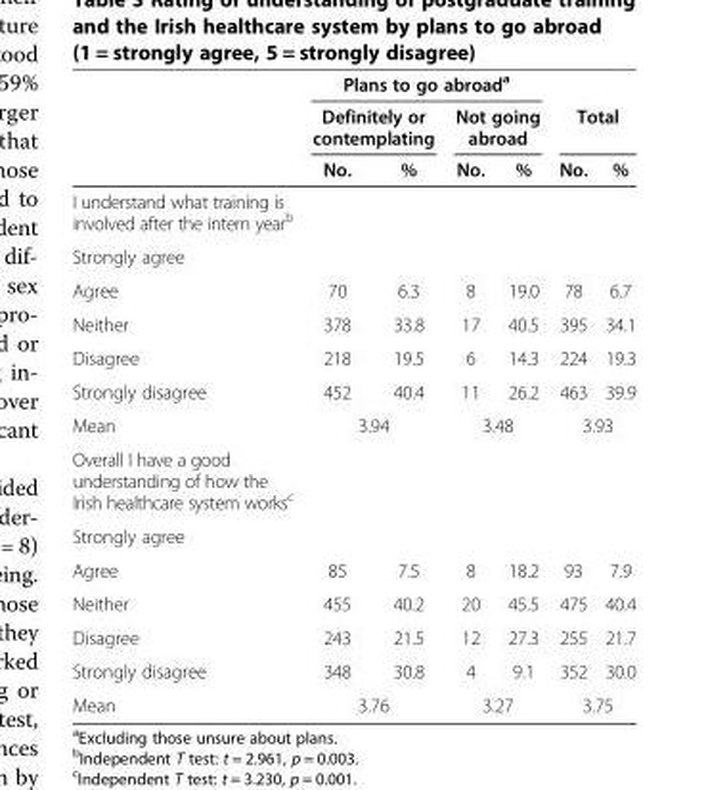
<table><thead><tr><td rowspan="3"></td><td colspan="4">Plans to go abroad<sup>a</sup></td><td></td><td></td></tr><tr><td colspan="2">Definitely or contemplating</td><td colspan="2">Not going abroad</td><td colspan="2">Total</td></tr><tr><td>No.</td><td>%</td><td>No.</td><td>%</td><td>No.</td><td>%</td></tr></thead><tbody><tr><td colspan="7">I understand what training is involved after the intern year<sup>b</sup></td></tr><tr><td colspan="7">Strongly agree</td></tr><tr><td>Agree</td><td>70</td><td>6.3</td><td>8</td><td>19.0</td><td>78</td><td>6.7</td></tr><tr><td>Neither</td><td>378</td><td>33.8</td><td>17</td><td>40.5</td><td>395</td><td>34.1</td></tr><tr><td>Disagree</td><td>218</td><td>19.5</td><td>6</td><td>14.3</td><td>224</td><td>19.3</td></tr><tr><td>Strongly disagree</td><td>452</td><td>40.4</td><td>11</td><td>26.2</td><td>463</td><td>39.9</td></tr><tr><td>Mean</td><td colspan="2">3.94</td><td colspan="2">3.48</td><td colspan="2">3.93</td></tr><tr><td colspan="7">Overall I have a good understanding of how the Irish healthcare system works<sup>c</sup></td></tr><tr><td colspan="7">Strongly agree</td></tr><tr><td>Agree</td><td>85</td><td>7.5</td><td>8</td><td>18.2</td><td>93</td><td>7.9</td></tr><tr><td>Neither</td><td>455</td><td>40.2</td><td>20</td><td>45.5</td><td>475</td><td>40.4</td></tr><tr><td>Disagree</td><td>243</td><td>21.5</td><td>12</td><td>27.3</td><td>255</td><td>21.7</td></tr><tr><td>Strongly disagree</td><td>348</td><td>30.8</td><td>4</td><td>9.1</td><td>352</td><td>30.0</td></tr><tr><td>Mean</td><td colspan="2">3.76</td><td colspan="2">3.27</td><td colspan="2">3.75</td></tr></tbody></table>